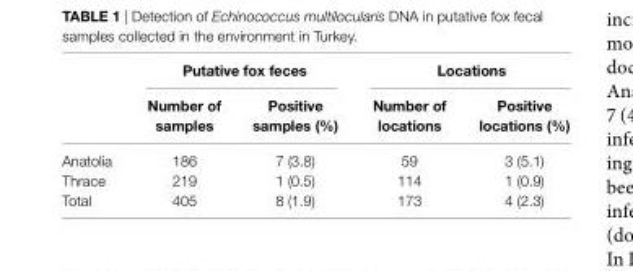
<table><thead><tr><td rowspan="2"></td><td colspan="2">Putative fox feces</td><td colspan="2">locations</td></tr><tr><td>number of samples</td><td>Positive samples (%)</td><td>number of locations</td><td>Positive locations (%)</td></tr></thead><tbody><tr><td>Anatolia</td><td>186</td><td>7 (3.8)</td><td>59</td><td>3 (5.1)</td></tr><tr><td>Thrace</td><td>219</td><td>1 (0.5)</td><td>114</td><td>1 (0.9)</td></tr><tr><td>Total</td><td>405</td><td>8 (1.9)</td><td>173</td><td>4 (2.3)</td></tr></tbody></table>